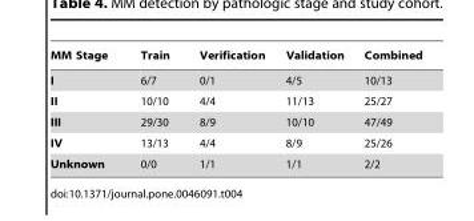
<table><thead><tr><td>MM Stage</td><td>Train</td><td>Verification</td><td>Validation</td><td>Combined</td></tr></thead><tbody><tr><td>I</td><td>6/7</td><td>0/1</td><td>4/5</td><td>10/13</td></tr><tr><td>II</td><td>10/10</td><td>4/4</td><td>11/13</td><td>25/27</td></tr><tr><td>III</td><td>29/30</td><td>8/9</td><td>10/10</td><td>47/49</td></tr><tr><td>IV</td><td>13/13</td><td>4/4</td><td>8/9</td><td>25/26</td></tr><tr><td>Unknown</td><td>0/0</td><td>1/1</td><td>1/1</td><td>2/2</td></tr></tbody></table>